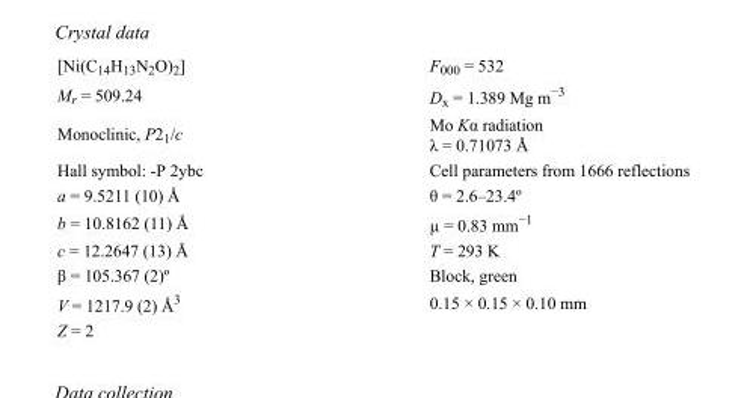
<table><tbody><tr><td>[Ni(C<sub>14</sub>H<sub>13</sub>N<sub>2</sub>O)<sub>2</sub>]</td><td>F000 = 532</td></tr><tr><td>M<sub>r</sub> = 509.24</td><td>D<sub>x</sub> = 1.389 Mg m<sup>−3</sup></td></tr><tr><td>Monoclinic, P2<sub>1</sub>/c</td><td>Mo Kα radiation λ = 0.71073 Å</td></tr><tr><td>Hall symbol: -P 2ybc</td><td>Cell parameters from 1666 reflections</td></tr><tr><td>a = 9.5211 (10) Å</td><td>θ = 2.6–23.4º</td></tr><tr><td>b = 10.8162 (11) Å</td><td>µ = 0.83 mm<sup>−1</sup></td></tr><tr><td>c = 12.2647 (13) Å</td><td>T = 293 K</td></tr><tr><td>β = 105.367 (2)º</td><td>Block, green</td></tr><tr><td>V = 1217.9 (2) Å<sup>3</sup></td><td>0.15 × 0.15 × 0.10 mm</td></tr><tr><td>Z = 2</td><td></td></tr></tbody></table>